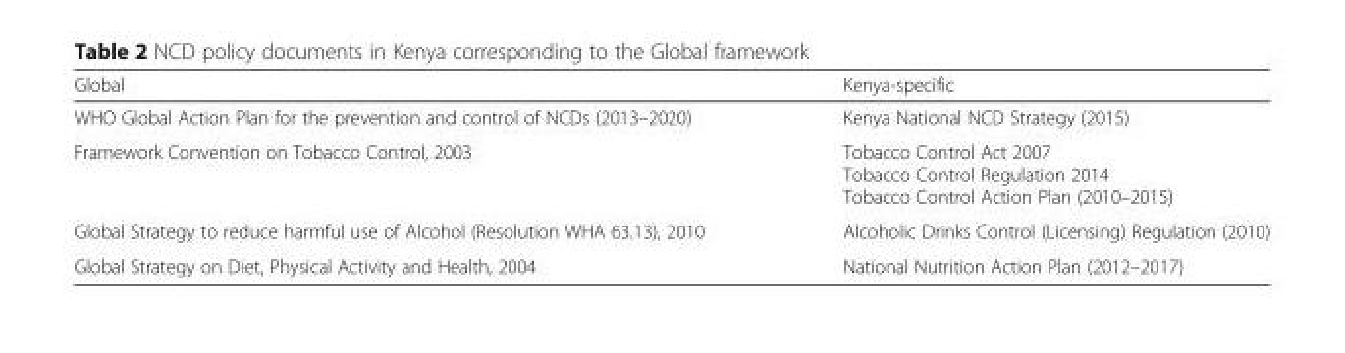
<table><thead><tr><td>Global</td><td>Kenya-specific</td></tr></thead><tbody><tr><td>WHO Global Action Plan for the prevention and control of NCDs (2013–2020)</td><td>Kenya National NCD Strategy (2015)</td></tr><tr><td>Framework Convention on Tobacco Control, 2003</td><td>Tobacco Control Act 2007 Tobacco Control Regulation 2014 Tobacco Control Action Plan (2010–2015)</td></tr><tr><td>Global Strategy to reduce harmful use of Alcohol (Resolution WHA 63.13), 2010</td><td>Alcoholic Drinks Control (Licensing) Regulation (2010)</td></tr><tr><td>Global Strategy on Diet, Physical Activity and Health, 2004</td><td>National Nutrition Action Plan (2012–2017)</td></tr></tbody></table>